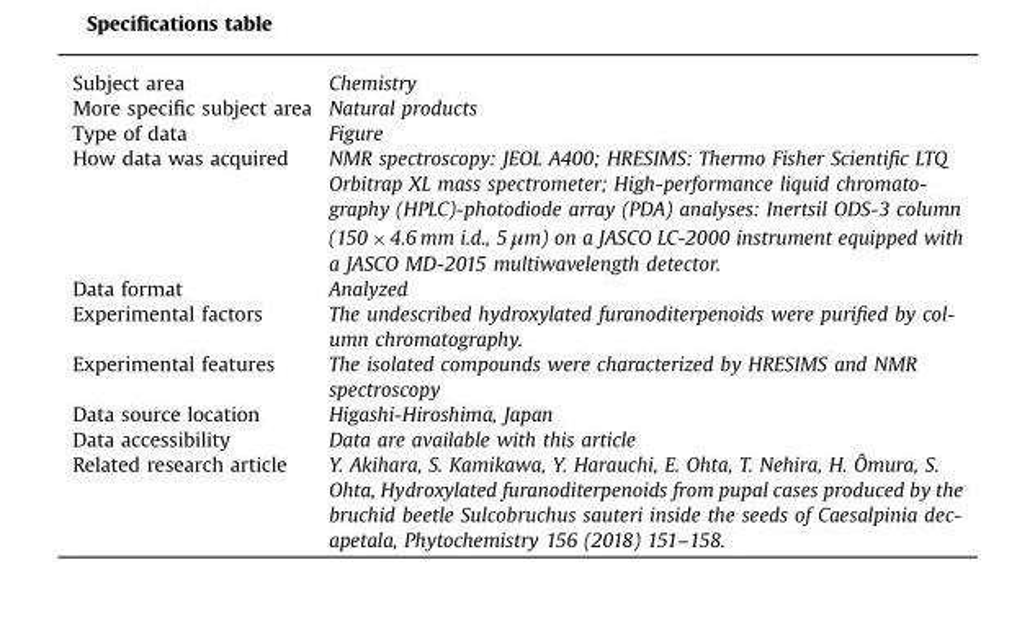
<table><tbody><tr><td>Subject area</td><td>Chemistry</td></tr><tr><td>More specific subject area</td><td>Natural products</td></tr><tr><td>Type of data</td><td>Figure</td></tr><tr><td>How data was acquired</td><td>NMR spectroscopy: JEOL A400; HRESIMS: Thermo Fisher Scientific LTQ Orbitrap XL mass spectrometer; High-performance liquid chromato- graphy (HPLC)-photodiode array (PDA) analyses: Inertsil ODS-3 column (150 � 4.6 mm i.d., 5 μm) on a JASCO LC-2000 instrument equipped with a JASCO MD-2015 multiwavelength detector.</td></tr><tr><td>Data format</td><td>Analyzed</td></tr><tr><td>Experimental factors</td><td>The undescribed hydroxylated furanoditerpenoids were purified by col- umn chromatography.</td></tr><tr><td>Experimental features</td><td>The isolated compounds were characterized by HRESIMS and NMR spectroscopy</td></tr><tr><td>Data source location</td><td>Higashi-Hiroshima, Japan</td></tr><tr><td>Data accessibility</td><td>Data are available with this article</td></tr><tr><td>Related research article</td><td>Y. Akihara, S. Kamikawa, Y. Harauchi, E. Ohta, T. Nehira, H. Ômura, S. Ohta, Hydroxylated furanoditerpenoids from pupal cases produced by the bruchid beetle Sulcobruchus sauteri inside the seeds of Caesalpinia dec- apetala, Phytochemistry 156 (2018) 151–158.</td></tr></tbody></table>